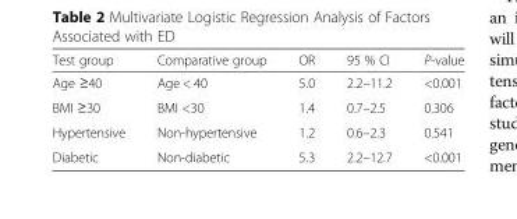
<table><thead><tr><td>Test group</td><td>Comparative group</td><td>OR</td><td>95 % CI</td><td>P-value</td></tr></thead><tbody><tr><td>Age ≥40</td><td>Age &lt; 40</td><td>5.0</td><td>2.2–11.2</td><td>&lt;0.001</td></tr><tr><td>BMI ≥30</td><td>BMI &lt;30</td><td>1.4</td><td>0.7–2.5</td><td>0.306</td></tr><tr><td>Hypertensive</td><td>Non-hypertensive</td><td>1.2</td><td>0.6–2.3</td><td>0.541</td></tr><tr><td>Diabetic</td><td>Non-diabetic</td><td>5.3</td><td>2.2–12.7</td><td>&lt;0.001</td></tr></tbody></table>